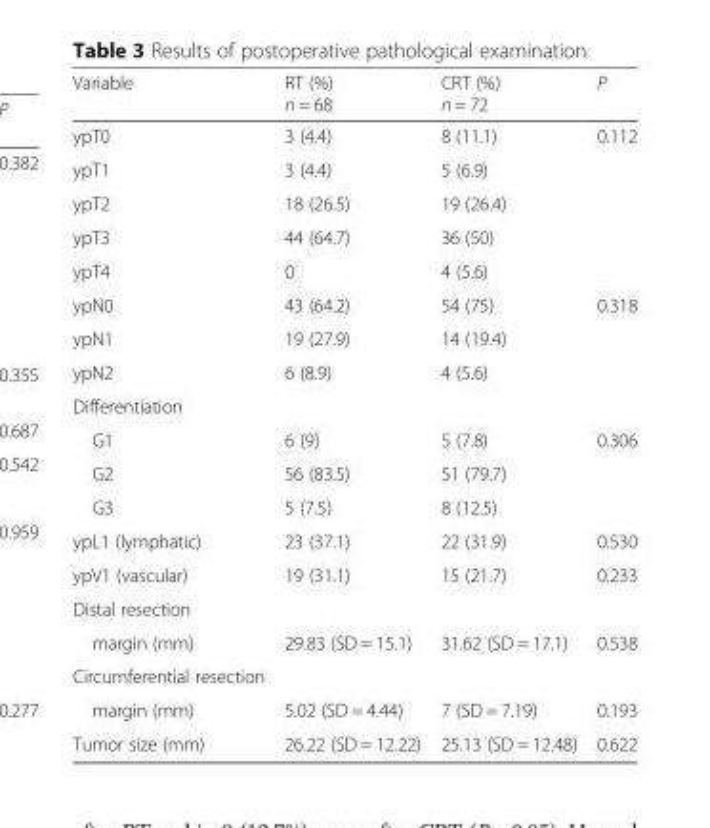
<table><thead><tr><td>Variable</td><td>RT (%) n = 68</td><td>CRT (%) n = 72</td><td>P</td></tr></thead><tbody><tr><td>ypT0</td><td>3 (4.4)</td><td>8 (11.1)</td><td>0.112</td></tr><tr><td>ypT1</td><td>3 (4.4)</td><td>5 (6.9)</td><td></td></tr><tr><td>ypT2</td><td>18 (26.5)</td><td>19 (26.4)</td><td></td></tr><tr><td>ypT3</td><td>44 (64.7)</td><td>36 (50)</td><td></td></tr><tr><td>ypT4</td><td>0</td><td>4 (5.6)</td><td></td></tr><tr><td>ypN0</td><td>43 (64.2)</td><td>54 (75)</td><td>0.318</td></tr><tr><td>ypN1</td><td>19 (27.9)</td><td>14 (19.4)</td><td></td></tr><tr><td>ypN2</td><td>6 (8.9)</td><td>4 (5.6)</td><td></td></tr><tr><td colspan="4">Differentiation</td></tr><tr><td>G1</td><td>6 (9)</td><td>5 (7.8)</td><td>0.306</td></tr><tr><td>G2</td><td>56 (83.5)</td><td>51 (79.7)</td><td></td></tr><tr><td>G3</td><td>5 (7.5)</td><td>8 (12.5)</td><td></td></tr><tr><td>ypL1 (lymphatic)</td><td>23 (37.1)</td><td>22 (31.9)</td><td>0.530</td></tr><tr><td>ypV1 (vascular)</td><td>19 (31.1)</td><td>15 (21.7)</td><td>0.233</td></tr><tr><td colspan="4">Distal resection</td></tr><tr><td>margin (mm)</td><td>29.83 (SD = 15.1)</td><td>31.62 (SD = 17.1)</td><td>0.538</td></tr><tr><td colspan="4">Circumferential resection</td></tr><tr><td>margin (mm)</td><td>5.02 (SD = 4.44)</td><td>7 (SD = 7.19)</td><td>0.193</td></tr><tr><td>Tumor size (mm)</td><td>26.22 (SD = 12.22)</td><td>25.13 (SD = 12.48)</td><td>0.622</td></tr></tbody></table>